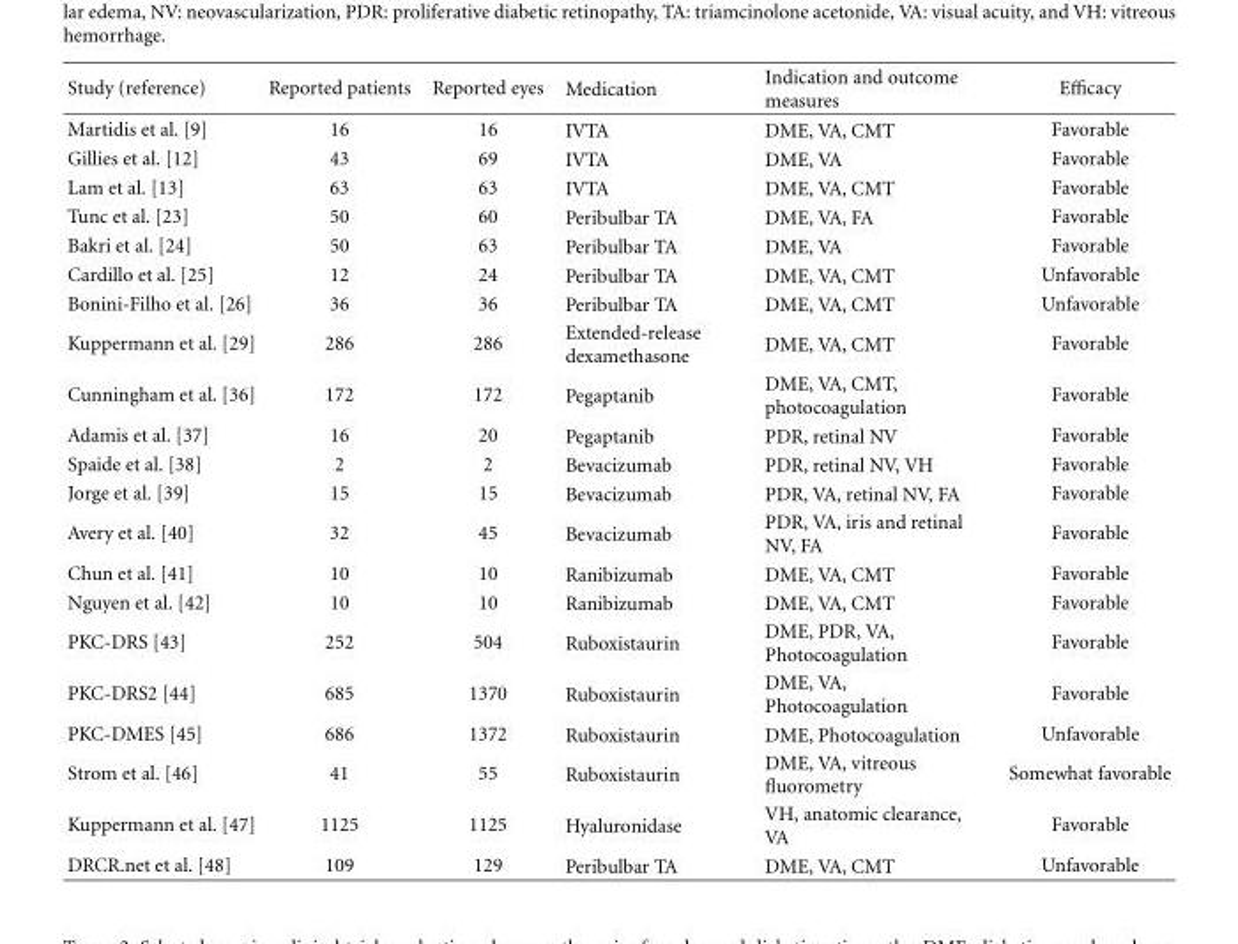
<table><tbody><tr><td>Study (reference)</td><td>Reported patients</td><td>Reported eyes</td><td>Medication</td><td>Indication and outcome measures</td><td>Efficacy</td></tr><tr><td>Martidis et al. [9]</td><td>16</td><td>16</td><td>IVTA</td><td>DME, VA, CMT</td><td>Favorable</td></tr><tr><td>Gillies et al. [12]</td><td>43</td><td>69</td><td>IVTA</td><td>DME, VA</td><td>Favorable</td></tr><tr><td>Lam et al. [13]</td><td>63</td><td>63</td><td>IVTA</td><td>DME, VA, CMT</td><td>Favorable</td></tr><tr><td>Tunc et al. [23]</td><td>50</td><td>60</td><td>Peribulbar TA</td><td>DME, VA, FA</td><td>Favorable</td></tr><tr><td>Bakri et al. [24]</td><td>50</td><td>63</td><td>Peribulbar TA</td><td>DME, VA</td><td>Favorable</td></tr><tr><td>Cardillo et al. [25]</td><td>12</td><td>24</td><td>Peribulbar TA</td><td>DME, VA, CMT</td><td>Unfavorable</td></tr><tr><td>Bonini-Filho et al. [26]</td><td>36</td><td>36</td><td>Peribulbar TA</td><td>DME, VA, CMT</td><td>Unfavorable</td></tr><tr><td>Kuppermann et al. [29]</td><td>286</td><td>286</td><td>Extended-release dexamethasone</td><td>DME, VA, CMT</td><td>Favorable</td></tr><tr><td>Cunningham et al. [36]</td><td>172</td><td>172</td><td>Pegaptanib</td><td>DME, VA, CMT, photocoagulation</td><td>Favorable</td></tr><tr><td>Adamis et al. [37]</td><td>16</td><td>20</td><td>Pegaptanib</td><td>PDR, retinal NV</td><td>Favorable</td></tr><tr><td>Spaide et al. [38]</td><td>2</td><td>2</td><td>Bevacizumab</td><td>PDR, retinal NV, VH</td><td>Favorable</td></tr><tr><td>Jorge et al. [39]</td><td>15</td><td>15</td><td>Bevacizumab</td><td>PDR, VA, retinal NV, FA</td><td>Favorable</td></tr><tr><td>Avery et al. [40]</td><td>32</td><td>45</td><td>Bevacizumab</td><td>PDR, VA, iris and retinal NV, FA</td><td>Favorable</td></tr><tr><td>Chun et al. [41]</td><td>10</td><td>10</td><td>Ranibizumab</td><td>DME, VA, CMT</td><td>Favorable</td></tr><tr><td>Nguyen et al. [42]</td><td>10</td><td>10</td><td>Ranibizumab</td><td>DME, VA, CMT</td><td>Favorable</td></tr><tr><td>PKC-DRS [43]</td><td>252</td><td>504</td><td>Ruboxistaurin</td><td>DME, PDR, VA, Photocoagulation</td><td>Favorable</td></tr><tr><td>PKC-DRS2 [44]</td><td>685</td><td>1370</td><td>Ruboxistaurin</td><td>DME, VA, Photocoagulation</td><td>Favorable</td></tr><tr><td>PKC-DMES [45]</td><td>686</td><td>1372</td><td>Ruboxistaurin</td><td>DME, Photocoagulation</td><td>Unfavorable</td></tr><tr><td>Strom et al. [46]</td><td>41</td><td>55</td><td>Ruboxistaurin</td><td>DME, VA, vitreous fluorometry</td><td>Somewhat favorable</td></tr><tr><td>Kuppermann et al. [47]</td><td>1125</td><td>1125</td><td>Hyaluronidase</td><td>VH, anatomic clearance, VA</td><td>Favorable</td></tr><tr><td>DRCR.net et al. [48]</td><td>109</td><td>129</td><td>Peribulbar TA</td><td>DME, VA, CMT</td><td>Unfavorable</td></tr></tbody></table>